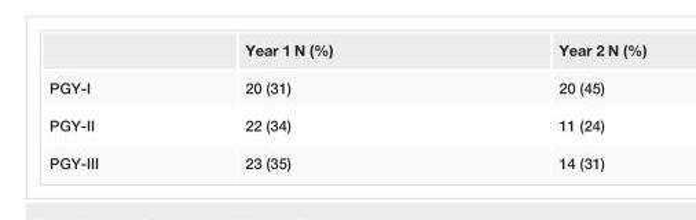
<table><thead><tr><td></td><td>Year 1 N (%)</td><td>Year 2 N (%)</td></tr></thead><tbody><tr><td>PGY-I</td><td>20 (31)</td><td>20 (45)</td></tr><tr><td>PGY-II</td><td>22 (34)</td><td>11 (24)</td></tr><tr><td>PGY-III</td><td>23 (35)</td><td>14 (31)</td></tr></tbody></table>